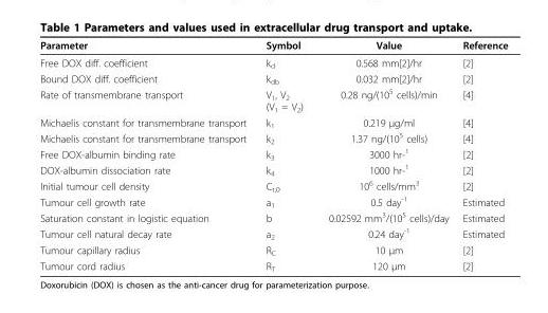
<table><thead><tr><td>Parameter</td><td>Symbol</td><td>Value</td><td>Reference</td></tr></thead><tbody><tr><td>Free DOX diff. coefficient</td><td>k<sub>d</sub></td><td>0.568 mm[2]/hr</td><td>[2]</td></tr><tr><td>Bound DOX diff. coefficient</td><td>k<sub>db</sub></td><td>0.032 mm[2]/hr</td><td>[2]</td></tr><tr><td>Rate of transmembrane transport</td><td>V<sub>1</sub>, V<sub>2</sub> (V<sub>1</sub> = V<sub>2</sub>)</td><td>0.28 ng/(10<sup>5</sup> cells)/min</td><td>[4]</td></tr><tr><td>Michaelis constant for transmembrane transport</td><td>k<sub>1</sub></td><td>0.219 μg/ml</td><td>[4]</td></tr><tr><td>Michaelis constant for transmembrane transport</td><td>k<sub>2</sub></td><td>1.37 ng/(10<sup>5</sup> cells)</td><td>[4]</td></tr><tr><td>Free DOX-albumin binding rate</td><td>k<sub>3</sub></td><td>3000 hr-<sup>1</sup></td><td>[2]</td></tr><tr><td>DOX-albumin dissociation rate</td><td>k<sub>4</sub></td><td>1000 hr-<sup>1</sup></td><td>[2]</td></tr><tr><td>Initial tumour cell density</td><td>C<sub>t,0</sub></td><td>10<sup>6</sup> cells/mm<sup>3</sup></td><td>[2]</td></tr><tr><td>Tumour cell growth rate</td><td>a<sub>1</sub></td><td>0.5 day<sup>-1</sup></td><td>Estimated</td></tr><tr><td>Saturation constant in logistic equation</td><td>b</td><td>0.02592 mm<sup>3</sup>/(10<sup>5</sup> cells)/day</td><td>Estimated</td></tr><tr><td>Tumour cell natural decay rate</td><td>a<sub>2</sub></td><td>0.24 day<sup>-1</sup></td><td>Estimated</td></tr><tr><td>Tumour capillary radius</td><td>R<sub>C</sub></td><td>10 μm</td><td>[2]</td></tr><tr><td>Tumour cord radius</td><td>R<sub>T</sub></td><td>120 μm</td><td>[2]</td></tr></tbody></table>